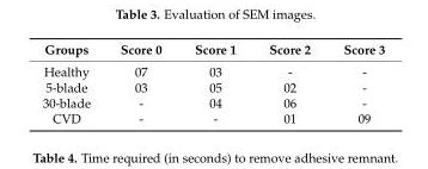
<table><thead><tr><td>Groups</td><td>Score 0</td><td>Score 1</td><td>Score 2</td><td>Score 3</td></tr></thead><tbody><tr><td>Healthy</td><td>07</td><td>03</td><td>-</td><td>-</td></tr><tr><td>5-blade</td><td>03</td><td>05</td><td>02</td><td>-</td></tr><tr><td>30-blade</td><td>-</td><td>04</td><td>06</td><td>-</td></tr><tr><td>CVD</td><td>-</td><td>-</td><td>01</td><td>09</td></tr></tbody></table>